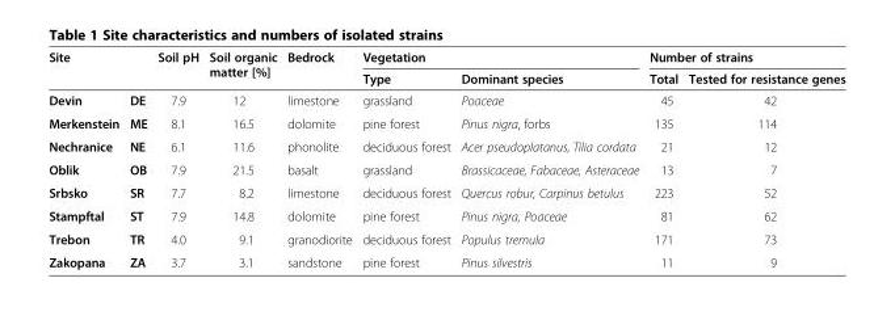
<table><thead><tr><td rowspan="2">Site</td><td rowspan="2"></td><td rowspan="2">Soil pH</td><td rowspan="2">Soil organic matter [%]</td><td rowspan="2">Bedrock</td><td colspan="2">Vegetation</td><td colspan="2">Number of strains</td></tr><tr><td>Type</td><td>Dominant species</td><td>Total</td><td>Tested for resistance genes</td></tr></thead><tbody><tr><td>Devin</td><td>DE</td><td>7.9</td><td>12</td><td>limestone</td><td>grassland</td><td>Poaceae</td><td>45</td><td>42</td></tr><tr><td>Merkenstein</td><td>ME</td><td>8.1</td><td>16.5</td><td>dolomite</td><td>pine forest</td><td>Pinus nigra, forbs</td><td>135</td><td>114</td></tr><tr><td>Nechranice</td><td>NE</td><td>6.1</td><td>11.6</td><td>phonolite</td><td>deciduous forest</td><td>Acer pseudoplatanus, Tilia cordata</td><td>21</td><td>12</td></tr><tr><td>Oblik</td><td>OB</td><td>7.9</td><td>21.5</td><td>basalt</td><td>grassland</td><td>Brassicaceae, Fabaceae, Asteraceae</td><td>13</td><td>7</td></tr><tr><td>Srbsko</td><td>SR</td><td>7.7</td><td>8.2</td><td>limestone</td><td>deciduous forest</td><td>Quercus robur, Carpinus betulus</td><td>223</td><td>52</td></tr><tr><td>Stampftal</td><td>ST</td><td>7.9</td><td>14.8</td><td>dolomite</td><td>pine forest</td><td>Pinus nigra, Poaceae</td><td>81</td><td>62</td></tr><tr><td>Trebon</td><td>TR</td><td>4.0</td><td>9.1</td><td>granodiorite</td><td>deciduous forest</td><td>Populus tremula</td><td>171</td><td>73</td></tr><tr><td>Zakopana</td><td>ZA</td><td>3.7</td><td>3.1</td><td>sandstone</td><td>pine forest</td><td>Pinus silvestris</td><td>11</td><td>9</td></tr></tbody></table>